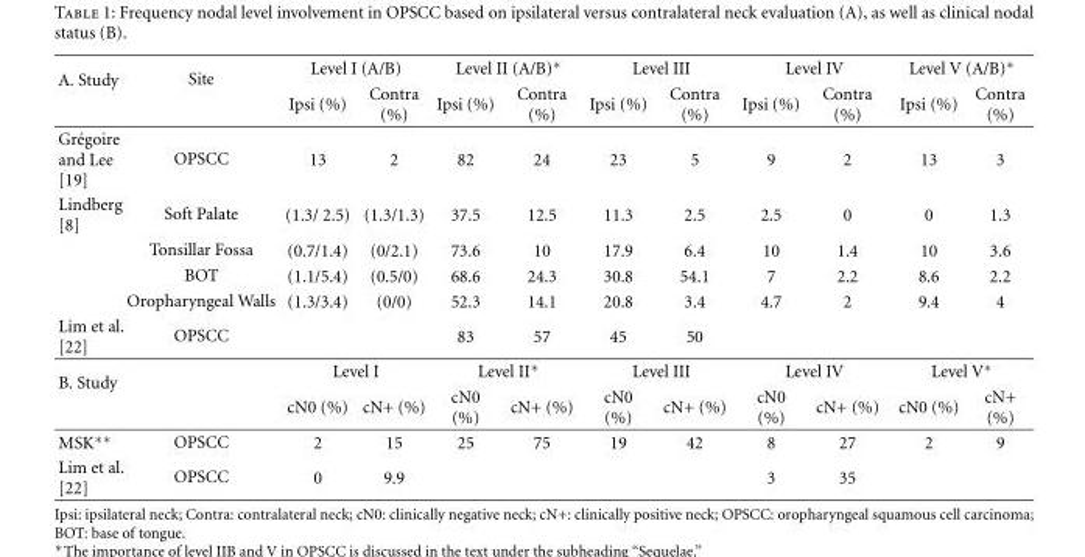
<table><thead><tr><td rowspan="2">A. Study</td><td rowspan="2">Site</td><td colspan="2">Level I (A/B)</td><td colspan="2">Level II (A/B)∗</td><td colspan="2">Level III</td><td colspan="2">Level IV</td><td colspan="2">Level V (A/B)∗</td></tr><tr><td>Ipsi (%)</td><td>Contra (%)</td><td>Ipsi (%)</td><td>Contra (%)</td><td>Ipsi (%)</td><td>Contra (%)</td><td>Ipsi (%)</td><td>Contra (%)</td><td>Ipsi (%)</td><td>Contra (%)</td></tr></thead><tbody><tr><td>Gr´egoire and Lee [19]</td><td>OPSCC</td><td>13</td><td>2</td><td>82</td><td>24</td><td>23</td><td>5</td><td>9</td><td>2</td><td>13</td><td>3</td></tr><tr><td rowspan="4">Lindberg [8]</td><td>Soft Palate</td><td>(1.3/ 2.5)</td><td>(1.3/1.3)</td><td>37.5</td><td>12.5</td><td>11.3</td><td>2.5</td><td>2.5</td><td>0</td><td>0</td><td>1.3</td></tr><tr><td>Tonsillar Fossa</td><td>(0.7/1.4)</td><td>(0/2.1)</td><td>73.6</td><td>10</td><td>17.9</td><td>6.4</td><td>10</td><td>1.4</td><td>10</td><td>3.6</td></tr><tr><td>BOT</td><td>(1.1/5.4)</td><td>(0.5/0)</td><td>68.6</td><td>24.3</td><td>30.8</td><td>54.1</td><td>7</td><td>2.2</td><td>8.6</td><td>2.2</td></tr><tr><td>Oropharyngeal Walls</td><td>(1.3/3.4)</td><td>(0/0)</td><td>52.3</td><td>14.1</td><td>20.8</td><td>3.4</td><td>4.7</td><td>2</td><td>9.4</td><td>4</td></tr><tr><td>Lim et al. [22]</td><td>OPSCC</td><td></td><td></td><td>83</td><td>57</td><td>45</td><td>50</td><td></td><td></td><td></td><td></td></tr><tr><td rowspan="2">B. Study</td><td></td><td colspan="2">Level I</td><td colspan="2">Level II∗</td><td colspan="2">Level III</td><td colspan="2">Level IV</td><td colspan="2">Level V∗</td></tr><tr><td></td><td>cN0 (%)</td><td>cN+ (%)</td><td>cN0 (%)</td><td>cN+ (%)</td><td>cN0 (%)</td><td>cN+ (%)</td><td>cN0 (%)</td><td>cN+ (%)</td><td>cN0 (%)</td><td>cN+ (%)</td></tr><tr><td>MSK∗∗</td><td>OPSCC</td><td>2</td><td>15</td><td>25</td><td>75</td><td>19</td><td>42</td><td>8</td><td>27</td><td>2</td><td>9</td></tr><tr><td>Lim et al. [22]</td><td>OPSCC</td><td>0</td><td>9.9</td><td></td><td></td><td></td><td></td><td>3</td><td>35</td><td></td><td></td></tr></tbody></table>